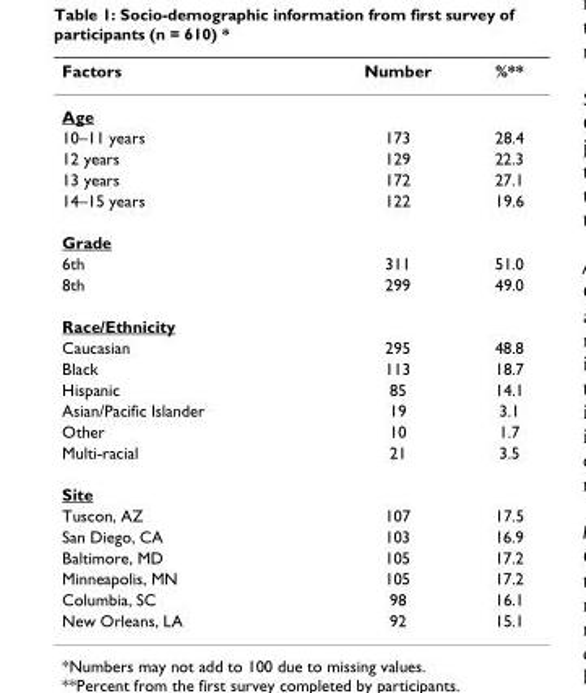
<table><thead><tr><td>Factors</td><td>Number</td><td>%**</td></tr></thead><tbody><tr><td colspan="3">Age</td></tr><tr><td>10–11 years</td><td>173</td><td>28.4</td></tr><tr><td>12 years</td><td>129</td><td>22.3</td></tr><tr><td>13 years</td><td>172</td><td>27.1</td></tr><tr><td>14–15 years</td><td>122</td><td>19.6</td></tr><tr><td colspan="3">Grade</td></tr><tr><td>6th</td><td>311</td><td>51.0</td></tr><tr><td>8th</td><td>299</td><td>49.0</td></tr><tr><td colspan="3">Race/Ethnicity</td></tr><tr><td>Caucasian</td><td>295</td><td>48.8</td></tr><tr><td>Black</td><td>113</td><td>18.7</td></tr><tr><td>Hispanic</td><td>85</td><td>14.1</td></tr><tr><td>Asian/Pacific Islander</td><td>19</td><td>3.1</td></tr><tr><td>Other</td><td>10</td><td>1.7</td></tr><tr><td>Multi-racial</td><td>21</td><td>3.5</td></tr><tr><td colspan="3">Site</td></tr><tr><td>Tuscon, AZ</td><td>107</td><td>17.5</td></tr><tr><td>San Diego, CA</td><td>103</td><td>16.9</td></tr><tr><td>Baltimore, MD</td><td>105</td><td>17.2</td></tr><tr><td>Minneapolis, MN</td><td>105</td><td>17.2</td></tr><tr><td>Columbia, SC</td><td>98</td><td>16.1</td></tr><tr><td>New Orleans, LA</td><td>92</td><td>15.1</td></tr></tbody></table>